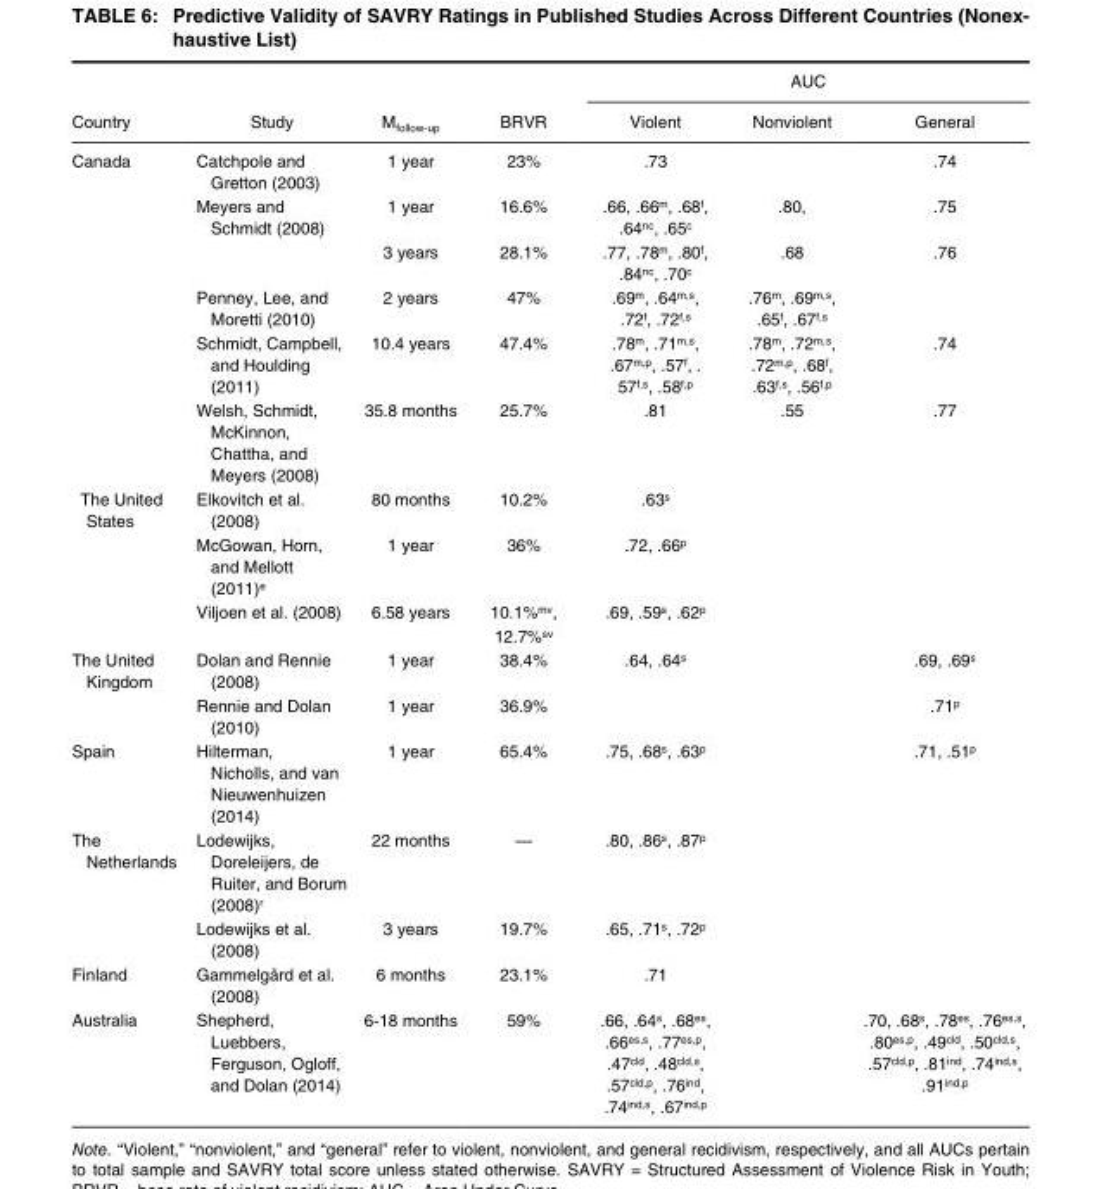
<table><thead><tr><td rowspan="2">Country</td><td rowspan="2">Study</td><td rowspan="2">M<sub>follow-up</sub></td><td rowspan="2">BRVR</td><td colspan="3">AUC</td></tr><tr><td>Violent</td><td>Nonviolent</td><td>General</td></tr></thead><tbody><tr><td rowspan="6">Canada</td><td>Catchpole and Gretton (2003)</td><td>1 year</td><td>23%</td><td>.73</td><td></td><td>.74</td></tr><tr><td>Meyers and Schmidt (2008)</td><td>1 year</td><td>16.6%</td><td>.66, .66<sup>m</sup>, .68<sup>f</sup>, .64<sup>nc</sup>, .65<sup>c</sup></td><td>.80,</td><td>.75</td></tr><tr><td></td><td>3 years</td><td>28.1%</td><td>.77, .78<sup>m</sup>, .80<sup>f</sup>, .84<sup>nc</sup>, .70<sup>c</sup></td><td>.68</td><td>.76</td></tr><tr><td>Penney, Lee, and Moretti (2010)</td><td>2 years</td><td>47%</td><td>.69<sup>m</sup>, .64<sup>m,s</sup>, .72<sup>f</sup>, .72<sup>f,s</sup></td><td>.76<sup>m</sup>, .69<sup>m,s</sup>, .65<sup>f</sup>, .67<sup>f,s</sup></td><td></td></tr><tr><td>Schmidt, Campbell, and Houlding (2011)</td><td>10.4 years</td><td>47.4%</td><td>.78<sup>m</sup>, .71<sup>m,s</sup>, .67<sup>m,p</sup>, .57<sup>f</sup>, . 57<sup>f,s</sup>, .58<sup>f,p</sup></td><td>.78<sup>m</sup>, .72<sup>m,s</sup>, .72<sup>m,p</sup>, .68<sup>f</sup>, .63<sup>f,s</sup>, .56<sup>f,p</sup></td><td>.74</td></tr><tr><td>Welsh, Schmidt, McKinnon, Chattha, and Meyers (2008)</td><td>35.8 months</td><td>25.7%</td><td>.81</td><td>.55</td><td>.77</td></tr><tr><td rowspan="4">The United States</td><td>Elkovitch et al. (2008)</td><td>80 months</td><td>10.2%</td><td>.63<sup>s</sup></td><td></td><td></td></tr><tr><td>McGowan, Horn, and Mellott (2011)<sup>e</sup></td><td>1 year</td><td>36%</td><td>.72, .66<sup>p</sup></td><td></td><td></td></tr><tr><td>Viljoen et al. (2008)</td><td>6.58 years</td><td>10.1%<sup>mv</sup>,</td><td>.69, .59<sup>s</sup>, .62<sup>p</sup></td><td></td><td></td></tr><tr><td></td><td></td><td>12.7%<sup>sv</sup></td><td></td><td></td><td></td></tr><tr><td rowspan="2">The United Kingdom</td><td>Dolan and Rennie (2008)</td><td>1 year</td><td>38.4%</td><td>.64, .64<sup>s</sup></td><td></td><td>.69, .69<sup>s</sup></td></tr><tr><td>Rennie and Dolan (2010)</td><td>1 year</td><td>36.9%</td><td></td><td></td><td>.71<sup>p</sup></td></tr><tr><td>Spain</td><td>Hilterman, Nicholls, and van Nieuwenhuizen (2014)</td><td>1 year</td><td>65.4%</td><td>.75, .68<sup>s</sup>, .63<sup>p</sup></td><td></td><td>.71, .51<sup>p</sup></td></tr><tr><td rowspan="2">The Netherlands</td><td>Lodewijks, Doreleijers, de Ruiter, and Borum (2008)<sup>r</sup></td><td>22 months</td><td>—</td><td>.80, .86<sup>s</sup>, .87<sup>p</sup></td><td></td><td></td></tr><tr><td>Lodewijks et al. (2008)</td><td>3 years</td><td>19.7%</td><td>.65, .71<sup>s</sup>, .72<sup>p</sup></td><td></td><td></td></tr><tr><td>Finland</td><td>Gammelgård et al. (2008)</td><td>6 months</td><td>23.1%</td><td>.71</td><td></td><td></td></tr><tr><td>Australia</td><td>Shepherd, Luebbers, Ferguson, Ogloff, and Dolan (2014)</td><td>6-18 months</td><td>59%</td><td>.66, .64<sup>s</sup>, .68<sup>es</sup>, .66<sup>es,s</sup>, .77<sup>es,p</sup>, .47<sup>cld</sup>, .48<sup>cld,s</sup>, .57<sup>cld,p</sup>, .76<sup>ind</sup>, .74<sup>ind,s</sup>, .67<sup>ind,p</sup></td><td></td><td>.70, .68<sup>s</sup>, .78<sup>es</sup>, .76<sup>es,s</sup>, .80<sup>es,p</sup>, .49<sup>cld</sup>, .50<sup>cld,s</sup>, .57<sup>cld,p</sup>, .81<sup>ind</sup>, .74<sup>ind,s</sup>, .91<sup>ind,p</sup></td></tr></tbody></table>